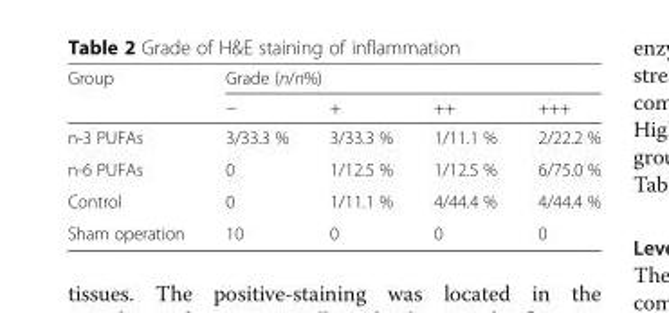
<table><thead><tr><td rowspan="2">Group</td><td colspan="4">Grade (n/n%)</td></tr><tr><td>−</td><td>+</td><td>++</td><td>+++</td></tr></thead><tbody><tr><td>n-3 PUFAs</td><td>3/33.3 %</td><td>3/33.3 %</td><td>1/11.1 %</td><td>2/22.2 %</td></tr><tr><td>n-6 PUFAs</td><td>0</td><td>1/12.5 %</td><td>1/12.5 %</td><td>6/75.0 %</td></tr><tr><td>Control</td><td>0</td><td>1/11.1 %</td><td>4/44.4 %</td><td>4/44.4 %</td></tr><tr><td>Sham operation</td><td>10</td><td>0</td><td>0</td><td>0</td></tr></tbody></table>